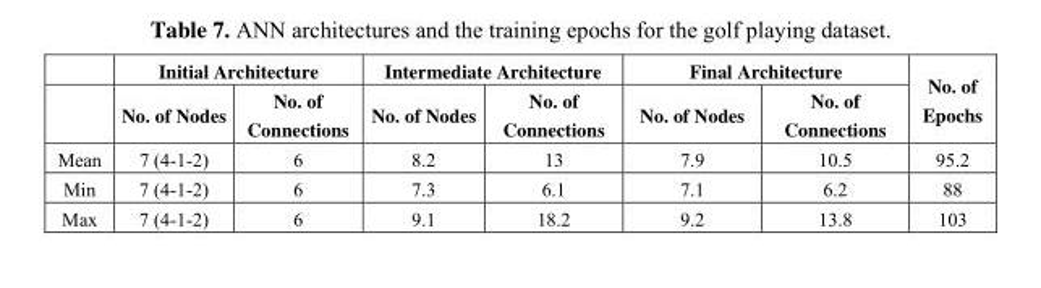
<table><thead><tr><td rowspan="2"></td><td colspan="2">Initial Architecture</td><td colspan="2">Intermediate Architecture</td><td colspan="2">Final Architecture</td><td rowspan="2">No. of Epochs</td></tr><tr><td>No. of Nodes</td><td>No. of Connections</td><td>No. of Nodes</td><td>No. of Connections</td><td>No. of Nodes</td><td>No. of Connections</td></tr></thead><tbody><tr><td>Mean</td><td>7 (4-1-2)</td><td>6</td><td>8.2</td><td>13</td><td>7.9</td><td>10.5</td><td>95.2</td></tr><tr><td>Min</td><td>7 (4-1-2)</td><td>6</td><td>7.3</td><td>6.1</td><td>7.1</td><td>6.2</td><td>88</td></tr><tr><td>Max</td><td>7 (4-1-2)</td><td>6</td><td>9.1</td><td>18.2</td><td>9.2</td><td>13.8</td><td>103</td></tr></tbody></table>